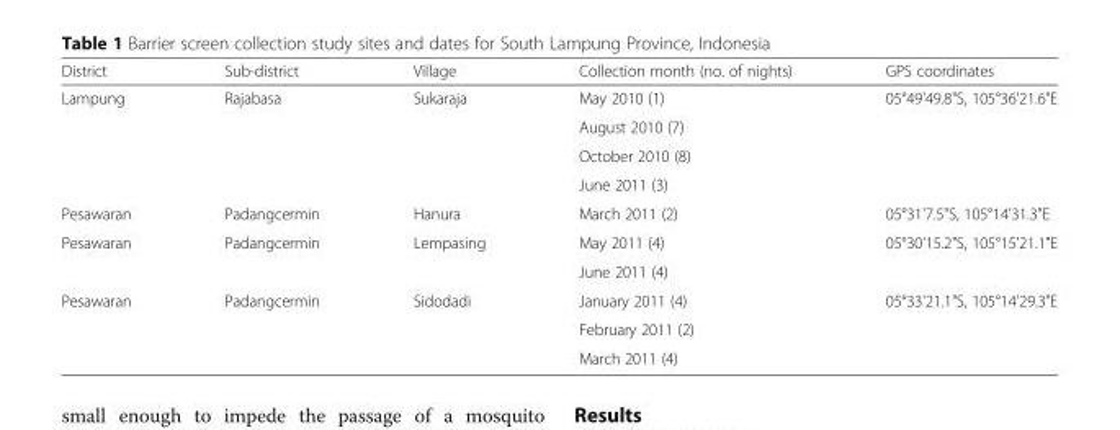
<table><thead><tr><td>District</td><td>Sub-district</td><td>Village</td><td>Collection month (no. of nights)</td><td>GPS coordinates</td></tr></thead><tbody><tr><td rowspan="4">Lampung</td><td rowspan="4">Rajabasa</td><td rowspan="4">Sukaraja</td><td>May 2010 (1)</td><td rowspan="4">05°49&#x27;49.8&quot;S, 105°36&#x27;21.6&quot;E</td></tr><tr><td>August 2010 (7)</td></tr><tr><td>October 2010 (8)</td></tr><tr><td>June 2011 (3)</td></tr><tr><td>Pesawaran</td><td>Padangcermin</td><td>Hanura</td><td>March 2011 (2)</td><td>05°31&#x27;7.5&quot;S, 105°14&#x27;31.3&quot;E</td></tr><tr><td rowspan="2">Pesawaran</td><td rowspan="2">Padangcermin</td><td rowspan="2">Lempasing</td><td>May 2011 (4)</td><td rowspan="2">05°30&#x27;15.2&quot;S, 105°15&#x27;21.1&quot;E</td></tr><tr><td>June 2011 (4)</td></tr><tr><td rowspan="3">Pesawaran</td><td rowspan="3">Padangcermin</td><td rowspan="3">Sidodadi</td><td>January 2011 (4)</td><td rowspan="3">05°33&#x27;21.1&quot;S, 105°14&#x27;29.3&quot;E</td></tr><tr><td>February 2011 (2)</td></tr><tr><td>March 2011 (4)</td></tr></tbody></table>